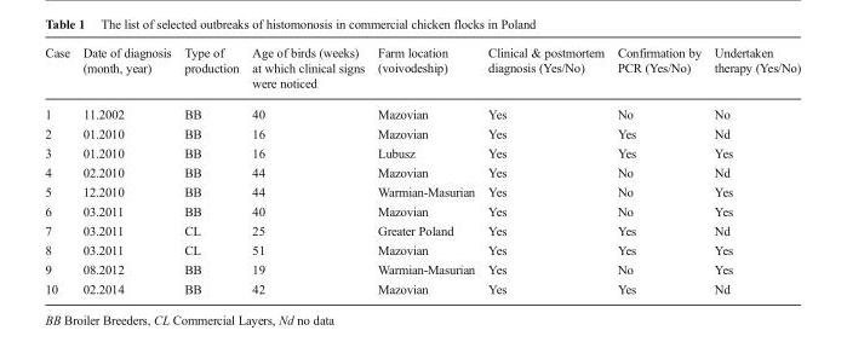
<table><thead><tr><td>Case</td><td>Date of diagnosis (month, year)</td><td>Type of production</td><td>Age of birds (weeks) at which clinical signs were noticed</td><td>Farm location (voivodeship)</td><td>Clinical &amp; postmortem diagnosis (Yes/No)</td><td>Confirmation by PCR (Yes/No)</td><td>Undertaken therapy (Yes/No)</td></tr></thead><tbody><tr><td>1</td><td>11.2002</td><td>BB</td><td>40</td><td>Mazovian</td><td>Yes</td><td>No</td><td>No</td></tr><tr><td>2</td><td>01.2010</td><td>BB</td><td>16</td><td>Mazovian</td><td>Yes</td><td>Yes</td><td>Nd</td></tr><tr><td>3</td><td>01.2010</td><td>BB</td><td>16</td><td>Lubusz</td><td>Yes</td><td>Yes</td><td>Yes</td></tr><tr><td>4</td><td>02.2010</td><td>BB</td><td>44</td><td>Mazovian</td><td>Yes</td><td>No</td><td>Nd</td></tr><tr><td>5</td><td>12.2010</td><td>BB</td><td>44</td><td>Warmian-Masurian</td><td>Yes</td><td>No</td><td>Yes</td></tr><tr><td>6</td><td>03.2011</td><td>BB</td><td>40</td><td>Mazovian</td><td>Yes</td><td>No</td><td>Yes</td></tr><tr><td>7</td><td>03.2011</td><td>CL</td><td>25</td><td>Greater Poland</td><td>Yes</td><td>Yes</td><td>Nd</td></tr><tr><td>8</td><td>03.2011</td><td>CL</td><td>51</td><td>Mazovian</td><td>Yes</td><td>Yes</td><td>Yes</td></tr><tr><td>9</td><td>08.2012</td><td>BB</td><td>19</td><td>Warmian-Masurian</td><td>Yes</td><td>No</td><td>Yes</td></tr><tr><td>10</td><td>02.2014</td><td>BB</td><td>42</td><td>Mazovian</td><td>Yes</td><td>Yes</td><td>Nd</td></tr></tbody></table>